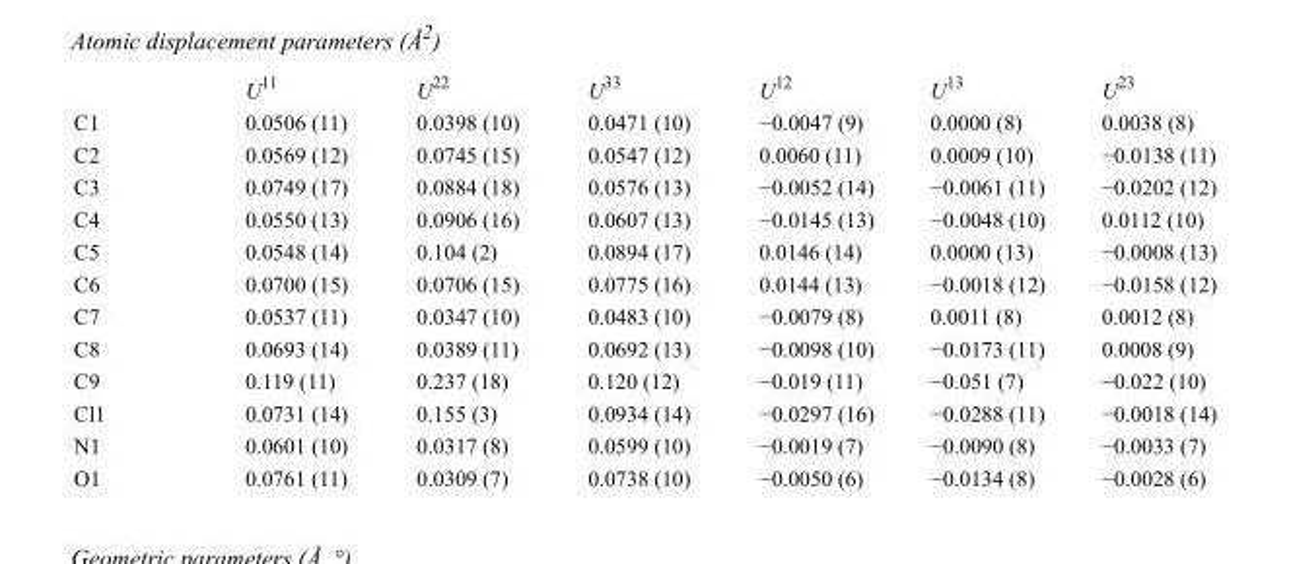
<table><thead><tr><td></td><td>U<sup>11</sup></td><td>U<sup>22</sup></td><td>U<sup>33</sup></td><td>U<sup>12</sup></td><td>U<sup>13</sup></td><td>U<sup>23</sup></td></tr></thead><tbody><tr><td>C1</td><td>0.0506 (11)</td><td>0.0398 (10)</td><td>0.0471 (10)</td><td>−0.0047 (9)</td><td>0.0000 (8)</td><td>0.0038 (8)</td></tr><tr><td>C2</td><td>0.0569 (12)</td><td>0.0745 (15)</td><td>0.0547 (12)</td><td>0.0060 (11)</td><td>0.0009 (10)</td><td>−0.0138 (11)</td></tr><tr><td>C3</td><td>0.0749 (17)</td><td>0.0884 (18)</td><td>0.0576 (13)</td><td>−0.0052 (14)</td><td>−0.0061 (11)</td><td>−0.0202 (12)</td></tr><tr><td>C4</td><td>0.0550 (13)</td><td>0.0906 (16)</td><td>0.0607 (13)</td><td>−0.0145 (13)</td><td>−0.0048 (10)</td><td>0.0112 (10)</td></tr><tr><td>C5</td><td>0.0548 (14)</td><td>0.104 (2)</td><td>0.0894 (17)</td><td>0.0146 (14)</td><td>0.0000 (13)</td><td>−0.0008 (13)</td></tr><tr><td>C6</td><td>0.0700 (15)</td><td>0.0706 (15)</td><td>0.0775 (16)</td><td>0.0144 (13)</td><td>−0.0018 (12)</td><td>−0.0158 (12)</td></tr><tr><td>C7</td><td>0.0537 (11)</td><td>0.0347 (10)</td><td>0.0483 (10)</td><td>−0.0079 (8)</td><td>0.0011 (8)</td><td>0.0012 (8)</td></tr><tr><td>C8</td><td>0.0693 (14)</td><td>0.0389 (11)</td><td>0.0692 (13)</td><td>−0.0098 (10)</td><td>−0.0173 (11)</td><td>0.0008 (9)</td></tr><tr><td>C9</td><td>0.119 (11)</td><td>0.237 (18)</td><td>0.120 (12)</td><td>−0.019 (11)</td><td>−0.051 (7)</td><td>−0.022 (10)</td></tr><tr><td>Cl1</td><td>0.0731 (14)</td><td>0.155 (3)</td><td>0.0934 (14)</td><td>−0.0297 (16)</td><td>−0.0288 (11)</td><td>−0.0018 (14)</td></tr><tr><td>N1</td><td>0.0601 (10)</td><td>0.0317 (8)</td><td>0.0599 (10)</td><td>−0.0019 (7)</td><td>−0.0090 (8)</td><td>−0.0033 (7)</td></tr><tr><td>O1</td><td>0.0761 (11)</td><td>0.0309 (7)</td><td>0.0738 (10)</td><td>−0.0050 (6)</td><td>−0.0134 (8)</td><td>−0.0028 (6)</td></tr></tbody></table>